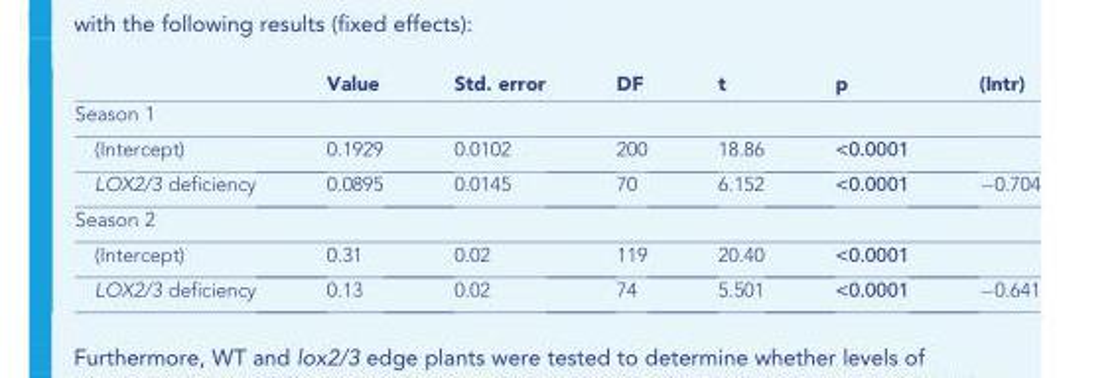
<table><thead><tr><td></td><td>Value</td><td>Std. error</td><td>DF</td><td>t</td><td>p</td><td>(Intr)</td></tr></thead><tbody><tr><td colspan="7">Season 1</td></tr><tr><td>(Intercept)</td><td>0.1929</td><td>0.0102</td><td>200</td><td>18.86</td><td>&lt;0.0001</td><td></td></tr><tr><td>LOX2/3 deficiency</td><td>0.0895</td><td>0.0145</td><td>70</td><td>6.152</td><td>&lt;0.0001</td><td>−0.704</td></tr><tr><td colspan="7">Season 2</td></tr><tr><td>(Intercept)</td><td>0.31</td><td>0.02</td><td>119</td><td>20.40</td><td>&lt;0.0001</td><td></td></tr><tr><td>LOX2/3 deficiency</td><td>0.13</td><td>0.02</td><td>74</td><td>5.501</td><td>&lt;0.0001</td><td>−0.641</td></tr></tbody></table>